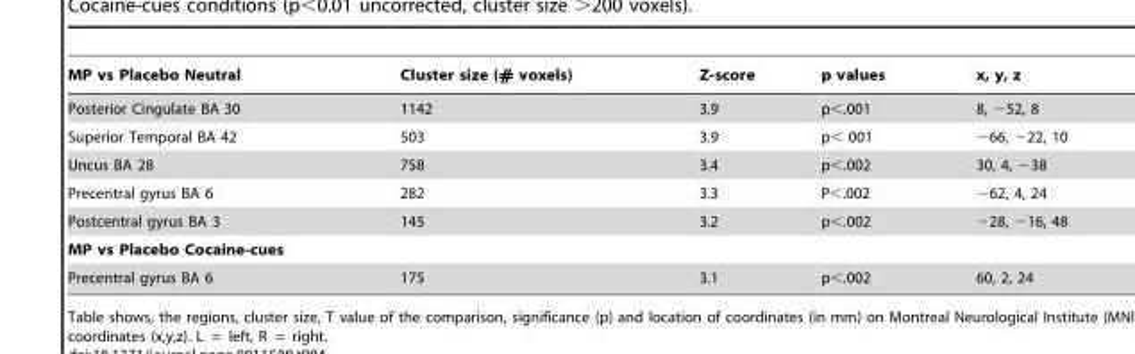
<table><thead><tr><td>MP vs Placebo Neutral</td><td>Cluster size (# voxels)</td><td>Z-score</td><td>p values</td><td>x, y, z</td></tr></thead><tbody><tr><td>Posterior Cingulate BA 30</td><td>1142</td><td>3.9</td><td>p&lt;.001</td><td>8, −52, 8</td></tr><tr><td>Superior Temporal BA 42</td><td>503</td><td>3.9</td><td>p&lt; 001</td><td>−66, −22, 10</td></tr><tr><td>Uncus BA 28</td><td>758</td><td>3.4</td><td>p&lt;.002</td><td>30, 4, −38</td></tr><tr><td>Precentral gyrus BA 6</td><td>282</td><td>3.3</td><td>P&lt;.002</td><td>−62, 4, 24</td></tr><tr><td>Postcentral gyrus BA 3</td><td>145</td><td>3.2</td><td>p&lt;.002</td><td>−28, −16, 48</td></tr><tr><td colspan="5">MP vs Placebo Cocaine-cues</td></tr><tr><td>Precentral gyrus BA 6</td><td>175</td><td>3.1</td><td>p&lt;.002</td><td>60, 2, 24</td></tr></tbody></table>